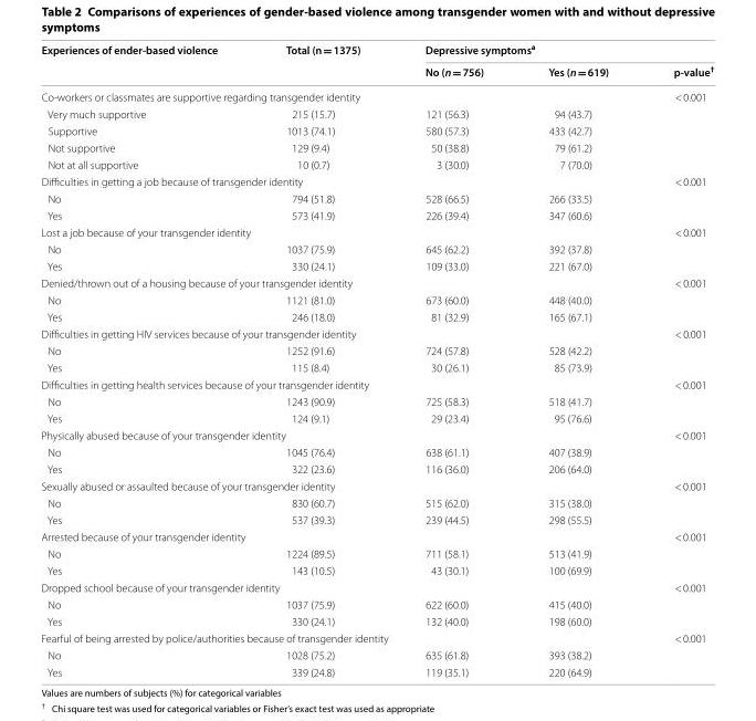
<table><thead><tr><td rowspan="2">Experiences of ender‑based violence</td><td rowspan="2">Total (n = 1375)</td><td colspan="3">Depressive symptoms<sup>a</sup></td></tr><tr><td>No (n = 756)</td><td>Yes (n = 619)</td><td>p‑value<sup>†</sup></td></tr></thead><tbody><tr><td colspan="4">Co-workers or classmates are supportive regarding transgender identity</td><td>&lt; 0.001</td></tr><tr><td>Very much supportive</td><td>215 (15.7)</td><td>121 (56.3)</td><td>94 (43.7)</td><td></td></tr><tr><td>Supportive</td><td>1013 (74.1)</td><td>580 (57.3)</td><td>433 (42.7)</td><td></td></tr><tr><td>Not supportive</td><td>129 (9.4)</td><td>50 (38.8)</td><td>79 (61.2)</td><td></td></tr><tr><td>Not at all supportive</td><td>10 (0.7)</td><td>3 (30.0)</td><td>7 (70.0)</td><td></td></tr><tr><td colspan="4">Difficulties in getting a job because of transgender identity</td><td>&lt; 0.001</td></tr><tr><td>No</td><td>794 (51.8)</td><td>528 (66.5)</td><td>266 (33.5)</td><td></td></tr><tr><td>Yes</td><td>573 (41.9)</td><td>226 (39.4)</td><td>347 (60.6)</td><td></td></tr><tr><td colspan="4">Lost a job because of your transgender identity</td><td>&lt; 0.001</td></tr><tr><td>No</td><td>1037 (75.9)</td><td>645 (62.2)</td><td>392 (37.8)</td><td></td></tr><tr><td>Yes</td><td>330 (24.1)</td><td>109 (33.0)</td><td>221 (67.0)</td><td></td></tr><tr><td colspan="4">Denied/thrown out of a housing because of your transgender identity</td><td>&lt; 0.001</td></tr><tr><td>No</td><td>1121 (81.0)</td><td>673 (60.0)</td><td>448 (40.0)</td><td></td></tr><tr><td>Yes</td><td>246 (18.0)</td><td>81 (32.9)</td><td>165 (67.1)</td><td></td></tr><tr><td colspan="4">Difficulties in getting HIV services because of your transgender identity</td><td>&lt; 0.001</td></tr><tr><td>No</td><td>1252 (91.6)</td><td>724 (57.8)</td><td>528 (42.2)</td><td></td></tr><tr><td>Yes</td><td>115 (8.4)</td><td>30 (26.1)</td><td>85 (73.9)</td><td></td></tr><tr><td colspan="4">Difficulties in getting health services because of your transgender identity</td><td>&lt; 0.001</td></tr><tr><td>No</td><td>1243 (90.9)</td><td>725 (58.3)</td><td>518 (41.7)</td><td></td></tr><tr><td>Yes</td><td>124 (9.1)</td><td>29 (23.4)</td><td>95 (76.6)</td><td></td></tr><tr><td colspan="4">Physically abused because of your transgender identity</td><td>&lt; 0.001</td></tr><tr><td>No</td><td>1045 (76.4)</td><td>638 (61.1)</td><td>407 (38.9)</td><td></td></tr><tr><td>Yes</td><td>322 (23.6)</td><td>116 (36.0)</td><td>206 (64.0)</td><td></td></tr><tr><td colspan="4">Sexually abused or assaulted because of your transgender identity</td><td>&lt; 0.001</td></tr><tr><td>No</td><td>830 (60.7)</td><td>515 (62.0)</td><td>315 (38.0)</td><td></td></tr><tr><td>Yes</td><td>537 (39.3)</td><td>239 (44.5)</td><td>298 (55.5)</td><td></td></tr><tr><td colspan="4">Arrested because of your transgender identity</td><td>&lt; 0.001</td></tr><tr><td>No</td><td>1224 (89.5)</td><td>711 (58.1)</td><td>513 (41.9)</td><td></td></tr><tr><td>Yes</td><td>143 (10.5)</td><td>43 (30.1)</td><td>100 (69.9)</td><td></td></tr><tr><td colspan="4">Dropped school because of your transgender identity</td><td>&lt; 0.001</td></tr><tr><td>No</td><td>1037 (75.9)</td><td>622 (60.0)</td><td>415 (40.0)</td><td></td></tr><tr><td>Yes</td><td>330 (24.1)</td><td>132 (40.0)</td><td>198 (60.0)</td><td></td></tr><tr><td colspan="4">Fearful of being arrested by police/authorities because of transgender identity</td><td>&lt; 0.001</td></tr><tr><td>No</td><td>1028 (75.2)</td><td>635 (61.8)</td><td>393 (38.2)</td><td></td></tr><tr><td>Yes</td><td>339 (24.8)</td><td>119 (35.1)</td><td>220 (64.9)</td><td></td></tr></tbody></table>